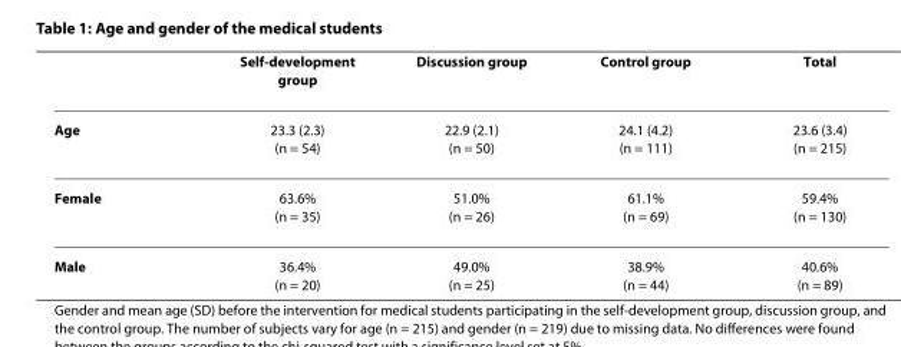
<table><thead><tr><td></td><td>Self-development group</td><td>Discussion group</td><td>Control group</td><td>Total</td></tr></thead><tbody><tr><td>Age</td><td>23.3 (2.3) (n = 54)</td><td>22.9 (2.1) (n = 50)</td><td>24.1 (4.2) (n = 111)</td><td>23.6 (3.4) (n = 215)</td></tr><tr><td>Female</td><td>63.6% (n = 35)</td><td>51.0% (n = 26)</td><td>61.1% (n = 69)</td><td>59.4% (n = 130)</td></tr><tr><td>Male</td><td>36.4% (n = 20)</td><td>49.0% (n = 25)</td><td>38.9% (n = 44)</td><td>40.6% (n = 89)</td></tr></tbody></table>